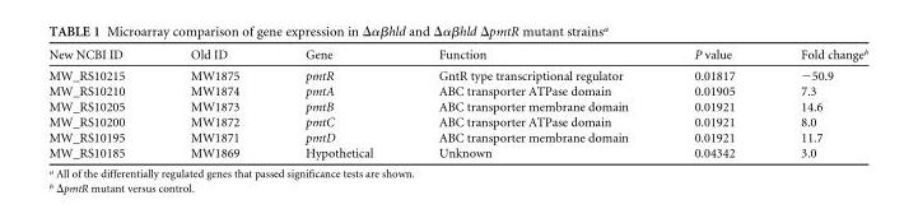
<table><thead><tr><td>New NCBI ID</td><td>Old ID</td><td>Gene</td><td>Function</td><td>P value</td><td>Fold change<sup>b</sup></td></tr></thead><tbody><tr><td>MW_RS10215</td><td>MW1875</td><td>pmtR</td><td>GntR type transcriptional regulator</td><td>0.01817</td><td>−50.9</td></tr><tr><td>MW_RS10210</td><td>MW1874</td><td>pmtA</td><td>ABC transporter ATPase domain</td><td>0.01905</td><td>7.3</td></tr><tr><td>MW_RS10205</td><td>MW1873</td><td>pmtB</td><td>ABC transporter membrane domain</td><td>0.01921</td><td>14.6</td></tr><tr><td>MW_RS10200</td><td>MW1872</td><td>pmtC</td><td>ABC transporter ATPase domain</td><td>0.01921</td><td>8.0</td></tr><tr><td>MW_RS10195</td><td>MW1871</td><td>pmtD</td><td>ABC transporter membrane domain</td><td>0.01921</td><td>11.7</td></tr><tr><td>MW_RS10185</td><td>MW1869</td><td>Hypothetical</td><td>Unknown</td><td>0.04342</td><td>3.0</td></tr></tbody></table>